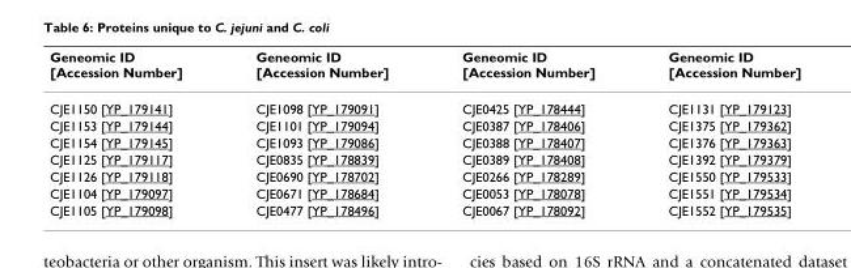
<table><thead><tr><td>Geneomic ID [Accession Number]</td><td>Geneomic ID [Accession Number]</td><td>Geneomic ID [Accession Number]</td><td>Geneomic ID [Accession Number]</td></tr></thead><tbody><tr><td>CJE1150 [YP_179141]</td><td>CJE1098 [YP_179091]</td><td>CJE0425 [YP_178444]</td><td>CJE1131 [YP_179123]</td></tr><tr><td>CJE1153 [YP_179144]</td><td>CJE1101 [YP_179094]</td><td>CJE0387 [YP_178406]</td><td>CJE1375 [YP_179362]</td></tr><tr><td>CJE1154 [YP_179145]</td><td>CJE1093 [YP_179086]</td><td>CJE0388 [YP_178407]</td><td>CJE1376 [YP_179363]</td></tr><tr><td>CJE1125 [YP_179117]</td><td>CJE0835 [YP_178839]</td><td>CJE0389 [YP_178408]</td><td>CJE1392 [YP_179379]</td></tr><tr><td>CJE1126 [YP_179118]</td><td>CJE0690 [YP_178702]</td><td>CJE0266 [YP_178289]</td><td>CJE1550 [YP_179533]</td></tr><tr><td>CJE1104 [YP_179097]</td><td>CJE0671 [YP_178684]</td><td>CJE0053 [YP_178078]</td><td>CJE1551 [YP_179534]</td></tr><tr><td>CJE1105 [YP_179098]</td><td>CJE0477 [YP_178496]</td><td>CJE0067 [YP_178092]</td><td>CJE1552 [YP_179535]</td></tr></tbody></table>